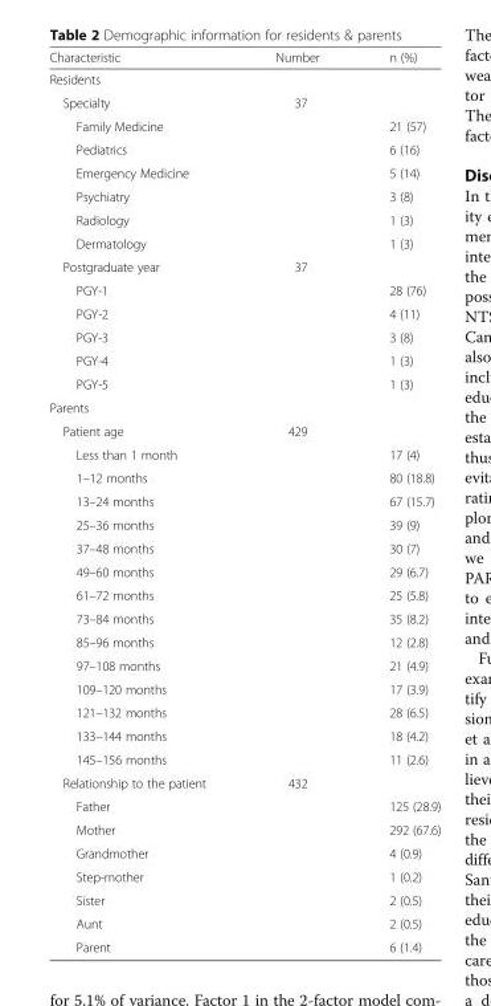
<table><thead><tr><td>Characteristic</td><td>Number</td><td>n (%)</td></tr></thead><tbody><tr><td colspan="3">Residents</td></tr><tr><td>Specialty</td><td>37</td><td></td></tr><tr><td>Family Medicine</td><td></td><td>21 (57)</td></tr><tr><td>Pediatrics</td><td></td><td>6 (16)</td></tr><tr><td>Emergency Medicine</td><td></td><td>5 (14)</td></tr><tr><td>Psychiatry</td><td></td><td>3 (8)</td></tr><tr><td>Radiology</td><td></td><td>1 (3)</td></tr><tr><td>Dermatology</td><td></td><td>1 (3)</td></tr><tr><td>Postgraduate year</td><td>37</td><td></td></tr><tr><td>PGY-1</td><td></td><td>28 (76)</td></tr><tr><td>PGY-2</td><td></td><td>4 (11)</td></tr><tr><td>PGY-3</td><td></td><td>3 (8)</td></tr><tr><td>PGY-4</td><td></td><td>1 (3)</td></tr><tr><td>PGY-5</td><td></td><td>1 (3)</td></tr><tr><td colspan="3">Parents</td></tr><tr><td>Patient age</td><td>429</td><td></td></tr><tr><td>Less than 1 month</td><td></td><td>17 (4)</td></tr><tr><td>1–12 months</td><td></td><td>80 (18.8)</td></tr><tr><td>13–24 months</td><td></td><td>67 (15.7)</td></tr><tr><td>25–36 months</td><td></td><td>39 (9)</td></tr><tr><td>37–48 months</td><td></td><td>30 (7)</td></tr><tr><td>49–60 months</td><td></td><td>29 (6.7)</td></tr><tr><td>61–72 months</td><td></td><td>25 (5.8)</td></tr><tr><td>73–84 months</td><td></td><td>35 (8.2)</td></tr><tr><td>85–96 months</td><td></td><td>12 (2.8)</td></tr><tr><td>97–108 months</td><td></td><td>21 (4.9)</td></tr><tr><td>109–120 months</td><td></td><td>17 (3.9)</td></tr><tr><td>121–132 months</td><td></td><td>28 (6.5)</td></tr><tr><td>133–144 months</td><td></td><td>18 (4.2)</td></tr><tr><td>145–156 months</td><td></td><td>11 (2.6)</td></tr><tr><td>Relationship to the patient</td><td>432</td><td></td></tr><tr><td>Father</td><td></td><td>125 (28.9)</td></tr><tr><td>Mother</td><td></td><td>292 (67.6)</td></tr><tr><td>Grandmother</td><td></td><td>4 (0.9)</td></tr><tr><td>Step-mother</td><td></td><td>1 (0.2)</td></tr><tr><td>Sister</td><td></td><td>2 (0.5)</td></tr><tr><td>Aunt</td><td></td><td>2 (0.5)</td></tr><tr><td>Parent</td><td></td><td>6 (1.4)</td></tr></tbody></table>